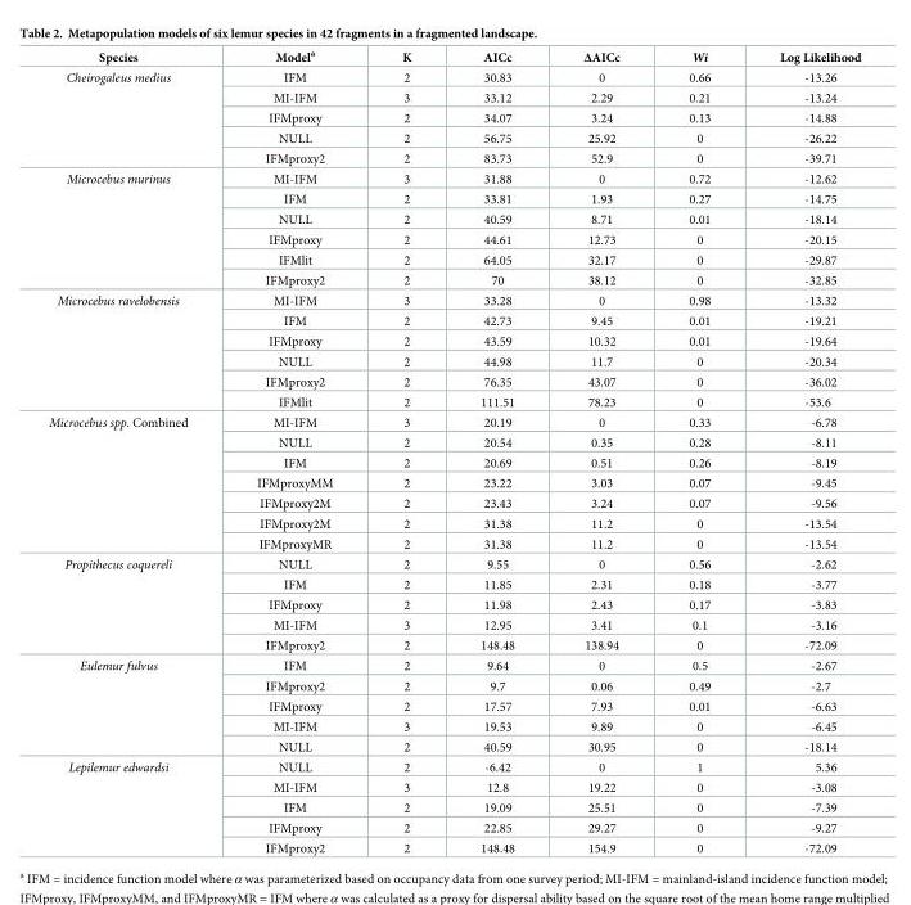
<table><thead><tr><td>Species</td><td>Model<sup>a</sup></td><td>K</td><td>AICc</td><td>ΔAICc</td><td>Wi</td><td>Log Likelihood</td></tr></thead><tbody><tr><td rowspan="5">Cheirogaleus medius</td><td>IFM</td><td>2</td><td>30.83</td><td>0</td><td>0.66</td><td>-13.26</td></tr><tr><td>MI-IFM</td><td>3</td><td>33.12</td><td>2.29</td><td>0.21</td><td>-13.24</td></tr><tr><td>IFMproxy</td><td>2</td><td>34.07</td><td>3.24</td><td>0.13</td><td>-14.88</td></tr><tr><td>NULL</td><td>2</td><td>56.75</td><td>25.92</td><td>0</td><td>-26.22</td></tr><tr><td>IFMproxy2</td><td>2</td><td>83.73</td><td>52.9</td><td>0</td><td>-39.71</td></tr><tr><td rowspan="6">Microcebus murinus</td><td>MI-IFM</td><td>3</td><td>31.88</td><td>0</td><td>0.72</td><td>-12.62</td></tr><tr><td>IFM</td><td>2</td><td>33.81</td><td>1.93</td><td>0.27</td><td>-14.75</td></tr><tr><td>NULL</td><td>2</td><td>40.59</td><td>8.71</td><td>0.01</td><td>-18.14</td></tr><tr><td>IFMproxy</td><td>2</td><td>44.61</td><td>12.73</td><td>0</td><td>-20.15</td></tr><tr><td>IFMlit</td><td>2</td><td>64.05</td><td>32.17</td><td>0</td><td>-29.87</td></tr><tr><td>IFMproxy2</td><td>2</td><td>70</td><td>38.12</td><td>0</td><td>-32.85</td></tr><tr><td rowspan="6">Microcebus ravelobensis</td><td>MI-IFM</td><td>3</td><td>33.28</td><td>0</td><td>0.98</td><td>-13.32</td></tr><tr><td>IFM</td><td>2</td><td>42.73</td><td>9.45</td><td>0.01</td><td>-19.21</td></tr><tr><td>IFMproxy</td><td>2</td><td>43.59</td><td>10.32</td><td>0.01</td><td>-19.64</td></tr><tr><td>NULL</td><td>2</td><td>44.98</td><td>11.7</td><td>0</td><td>-20.34</td></tr><tr><td>IFMproxy2</td><td>2</td><td>76.35</td><td>43.07</td><td>0</td><td>-36.02</td></tr><tr><td>IFMlit</td><td>2</td><td>111.51</td><td>78.23</td><td>0</td><td>-53.6</td></tr><tr><td rowspan="7">Microcebus spp. Combined</td><td>MI-IFM</td><td>3</td><td>20.19</td><td>0</td><td>0.33</td><td>-6.78</td></tr><tr><td>NULL</td><td>2</td><td>20.54</td><td>0.35</td><td>0.28</td><td>-8.11</td></tr><tr><td>IFM</td><td>2</td><td>20.69</td><td>0.51</td><td>0.26</td><td>-8.19</td></tr><tr><td>IFMproxyMM</td><td>2</td><td>23.22</td><td>3.03</td><td>0.07</td><td>-9.45</td></tr><tr><td>IFMproxy2M</td><td>2</td><td>23.43</td><td>3.24</td><td>0.07</td><td>-9.56</td></tr><tr><td>IFMproxy2M</td><td>2</td><td>31.38</td><td>11.2</td><td>0</td><td>-13.54</td></tr><tr><td>IFMproxyMR</td><td>2</td><td>31.38</td><td>11.2</td><td>0</td><td>-13.54</td></tr><tr><td rowspan="5">Propithecus coquereli</td><td>NULL</td><td>2</td><td>9.55</td><td>0</td><td>0.56</td><td>-2.62</td></tr><tr><td>IFM</td><td>2</td><td>11.85</td><td>2.31</td><td>0.18</td><td>-3.77</td></tr><tr><td>IFMproxy</td><td>2</td><td>11.98</td><td>2.43</td><td>0.17</td><td>-3.83</td></tr><tr><td>MI-IFM</td><td>3</td><td>12.95</td><td>3.41</td><td>0.1</td><td>-3.16</td></tr><tr><td>IFMproxy2</td><td>2</td><td>148.48</td><td>138.94</td><td>0</td><td>-72.09</td></tr><tr><td rowspan="5">Eulemur fulvus</td><td>IFM</td><td>2</td><td>9.64</td><td>0</td><td>0.5</td><td>-2.67</td></tr><tr><td>IFMproxy2</td><td>2</td><td>9.7</td><td>0.06</td><td>0.49</td><td>-2.7</td></tr><tr><td>IFMproxy</td><td>2</td><td>17.57</td><td>7.93</td><td>0.01</td><td>-6.63</td></tr><tr><td>MI-IFM</td><td>3</td><td>19.53</td><td>9.89</td><td>0</td><td>-6.45</td></tr><tr><td>NULL</td><td>2</td><td>40.59</td><td>30.95</td><td>0</td><td>-18.14</td></tr><tr><td rowspan="5">Lepilemur edwardsi</td><td>NULL</td><td>2</td><td>-6.42</td><td>0</td><td>1</td><td>5.36</td></tr><tr><td>MI-IFM</td><td>3</td><td>12.8</td><td>19.22</td><td>0</td><td>-3.08</td></tr><tr><td>IFM</td><td>2</td><td>19.09</td><td>25.51</td><td>0</td><td>-7.39</td></tr><tr><td>IFMproxy</td><td>2</td><td>22.85</td><td>29.27</td><td>0</td><td>-9.27</td></tr><tr><td>IFMproxy2</td><td>2</td><td>148.48</td><td>154.9</td><td>0</td><td>-72.09</td></tr></tbody></table>